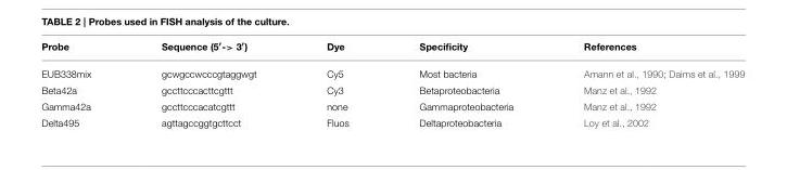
<table><thead><tr><td>Probe</td><td>Sequence (5′-&gt; 3′)</td><td>Dye</td><td>Specificity</td><td>References</td></tr></thead><tbody><tr><td>EUB338mix</td><td>gcwgccwcccgtaggwgt</td><td>Cy5</td><td>Most bacteria</td><td>Amann et al., 1990; Daims et al., 1999</td></tr><tr><td>Beta42a</td><td>gccttcccacttcgttt</td><td>Cy3</td><td>Betaproteobacteria</td><td>Manz et al., 1992</td></tr><tr><td>Gamma42a</td><td>gccttcccacatcgttt</td><td>none</td><td>Gammaproteobacteria</td><td>Manz et al., 1992</td></tr><tr><td>Delta495</td><td>agttagccggtgcttcct</td><td>Fluos</td><td>Deltaproteobacteria</td><td>Loy et al., 2002</td></tr></tbody></table>